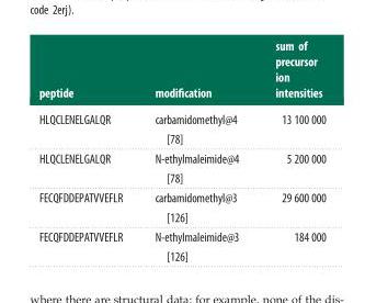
<table><thead><tr><td>peptide</td><td>modification</td><td>sum of precursor ion intensities</td></tr></thead><tbody><tr><td>HLQCLENELGALQR</td><td>carbamidomethyl@4 [78]</td><td>13 100 000</td></tr><tr><td>HLQCLENELGALQR</td><td>N-ethylmaleimide@4 [78]</td><td>5 200 000</td></tr><tr><td>FECQFDDEPATVVEFLR</td><td>carbamidomethyl@3 [126]</td><td>29 600 000</td></tr><tr><td>FECQFDDEPATVVEFLR</td><td>N-ethylmaleimide@3 [126]</td><td>184 000</td></tr></tbody></table>